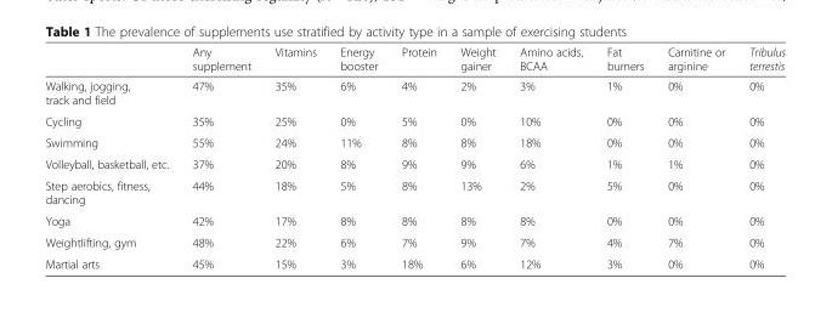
<table><thead><tr><td></td><td>Any supplement</td><td>Vitamins</td><td>Energy booster</td><td>Protein</td><td>Weight gainer</td><td>Amino acids, BCAA</td><td>Fat burners</td><td>Carnitine or arginine</td><td>Tribulus terrestis</td></tr></thead><tbody><tr><td>Walking, jogging, track and field</td><td>47%</td><td>35%</td><td>6%</td><td>4%</td><td>2%</td><td>3%</td><td>1%</td><td>0%</td><td>0%</td></tr><tr><td>Cycling</td><td>35%</td><td>25%</td><td>0%</td><td>5%</td><td>0%</td><td>10%</td><td>0%</td><td>0%</td><td>0%</td></tr><tr><td>Swimming</td><td>55%</td><td>24%</td><td>11%</td><td>8%</td><td>8%</td><td>18%</td><td>0%</td><td>0%</td><td>0%</td></tr><tr><td>Volleyball, basketball, etc.</td><td>37%</td><td>20%</td><td>8%</td><td>9%</td><td>9%</td><td>6%</td><td>1%</td><td>1%</td><td>0%</td></tr><tr><td>Step aerobics, fitness, dancing</td><td>44%</td><td>18%</td><td>5%</td><td>8%</td><td>13%</td><td>2%</td><td>5%</td><td>0%</td><td>0%</td></tr><tr><td>Yoga</td><td>42%</td><td>17%</td><td>8%</td><td>8%</td><td>8%</td><td>8%</td><td>0%</td><td>0%</td><td>0%</td></tr><tr><td>Weightlifting, gym</td><td>48%</td><td>22%</td><td>6%</td><td>7%</td><td>9%</td><td>7%</td><td>4%</td><td>7%</td><td>0%</td></tr><tr><td>Martial arts</td><td>45%</td><td>15%</td><td>3%</td><td>18%</td><td>6%</td><td>12%</td><td>3%</td><td>0%</td><td>0%</td></tr></tbody></table>